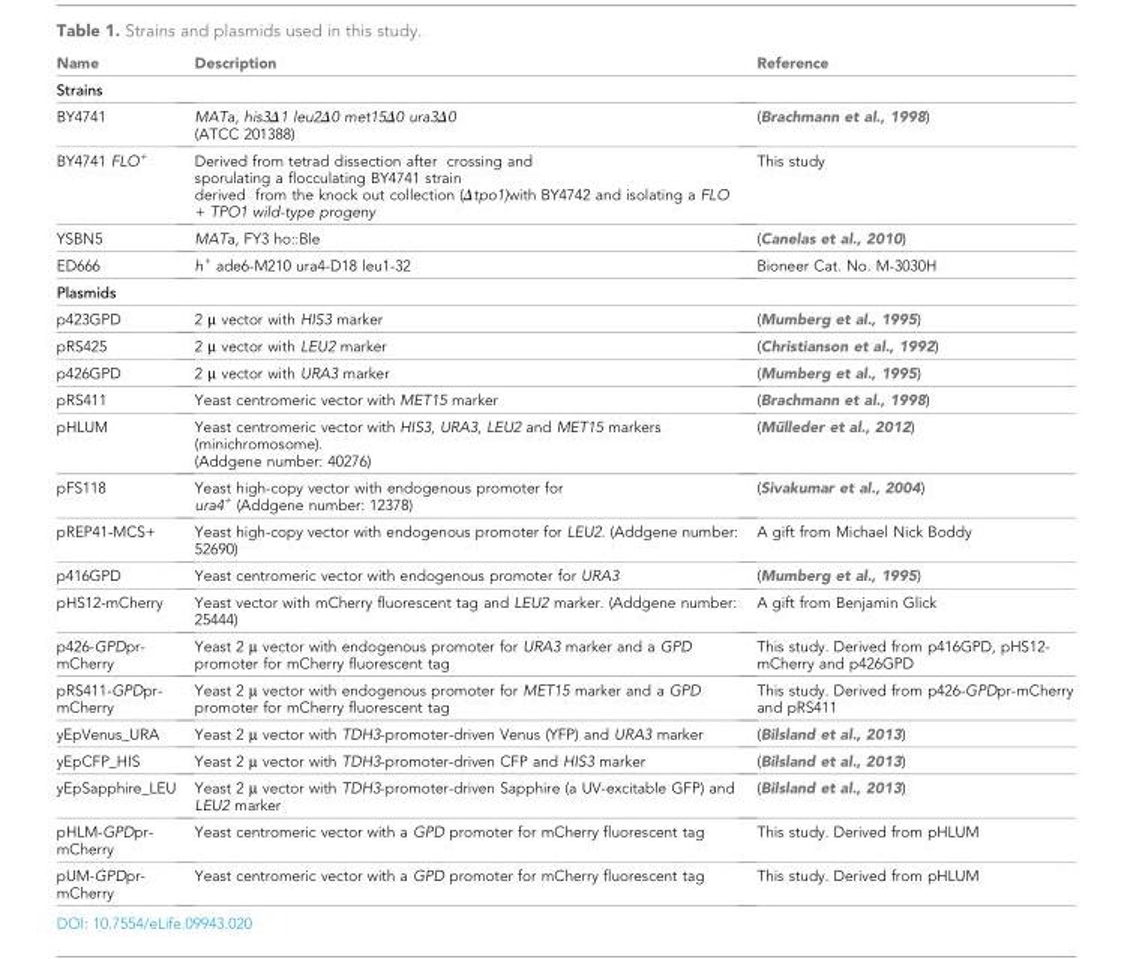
<table><thead><tr><td>Name</td><td>Description</td><td>Reference</td></tr></thead><tbody><tr><td colspan="3">Strains</td></tr><tr><td>BY4741</td><td>MATa, his3∆1 leu2∆0 met15∆0 ura3∆0 (ATCC 201388)</td><td>(Brachmann et al., 1998)</td></tr><tr><td>BY4741 FLO<sup>+</sup></td><td>Derived from tetrad dissection after crossing and sporulating a flocculating BY4741 strain derived from the knock out collection (∆tpo1)with BY4742 and isolating a FLO + TPO1 wild-type progeny</td><td>This study</td></tr><tr><td>YSBN5</td><td>MATa, FY3 ho::Ble</td><td>(Canelas et al., 2010)</td></tr><tr><td>ED666</td><td>h<sup>+</sup> ade6-M210 ura4-D18 leu1-32</td><td>Bioneer Cat. No. M-3030H</td></tr><tr><td colspan="3">Plasmids</td></tr><tr><td>p423GPD</td><td>2 µ vector with HIS3 marker</td><td>(Mumberg et al., 1995)</td></tr><tr><td>pRS425</td><td>2 µ vector with LEU2 marker</td><td>(Christianson et al., 1992)</td></tr><tr><td>p426GPD</td><td>2 µ vector with URA3 marker</td><td>(Mumberg et al., 1995)</td></tr><tr><td>pRS411</td><td>Yeast centromeric vector with MET15 marker</td><td>(Brachmann et al., 1998)</td></tr><tr><td>pHLUM</td><td>Yeast centromeric vector with HIS3, URA3, LEU2 and MET15 markers (minichromosome). (Addgene number: 40276)</td><td>(Mu¨lleder et al., 2012)</td></tr><tr><td>pFS118</td><td>Yeast high-copy vector with endogenous promoter for ura4<sup>+</sup> (Addgene number: 12378)</td><td>(Sivakumar et al., 2004)</td></tr><tr><td>pREP41-MCS+</td><td>Yeast high-copy vector with endogenous promoter for LEU2. (Addgene number: 52690)</td><td>A gift from Michael Nick Boddy</td></tr><tr><td>p416GPD</td><td>Yeast centromeric vector with endogenous promoter for URA3</td><td>(Mumberg et al., 1995)</td></tr><tr><td>pHS12-mCherry</td><td>Yeast vector with mCherry fluorescent tag and LEU2 marker. (Addgene number: 25444)</td><td>A gift from Benjamin Glick</td></tr><tr><td>p426-GPDpr- mCherry</td><td>Yeast 2 µ vector with endogenous promoter for URA3 marker and a GPD promoter for mCherry fluorescent tag</td><td>This study. Derived from p416GPD, pHS12- mCherry and p426GPD</td></tr><tr><td>pRS411-GPDpr- mCherry</td><td>Yeast 2 µ vector with endogenous promoter for MET15 marker and a GPD promoter for mCherry fluorescent tag</td><td>This study. Derived from p426-GPDpr-mCherry and pRS411</td></tr><tr><td>yEpVenus_URA</td><td>Yeast 2 µ vector with TDH3-promoter-driven Venus (YFP) and URA3 marker</td><td>(Bilsland et al., 2013)</td></tr><tr><td>yEpCFP_HIS</td><td>Yeast 2 µ vector with TDH3-promoter-driven CFP and HIS3 marker</td><td>(Bilsland et al., 2013)</td></tr><tr><td>yEpSapphire_LEU</td><td>Yeast 2 µ vector with TDH3-promoter-driven Sapphire (a UV-excitable GFP) and LEU2 marker</td><td>(Bilsland et al., 2013)</td></tr><tr><td>pHLM-GPDpr- mCherry</td><td>Yeast centromeric vector with a GPD promoter for mCherry fluorescent tag</td><td>This study. Derived from pHLUM</td></tr><tr><td>pUM-GPDpr- mCherry</td><td>Yeast centromeric vector with a GPD promoter for mCherry fluorescent tag</td><td>This study. Derived from pHLUM</td></tr></tbody></table>